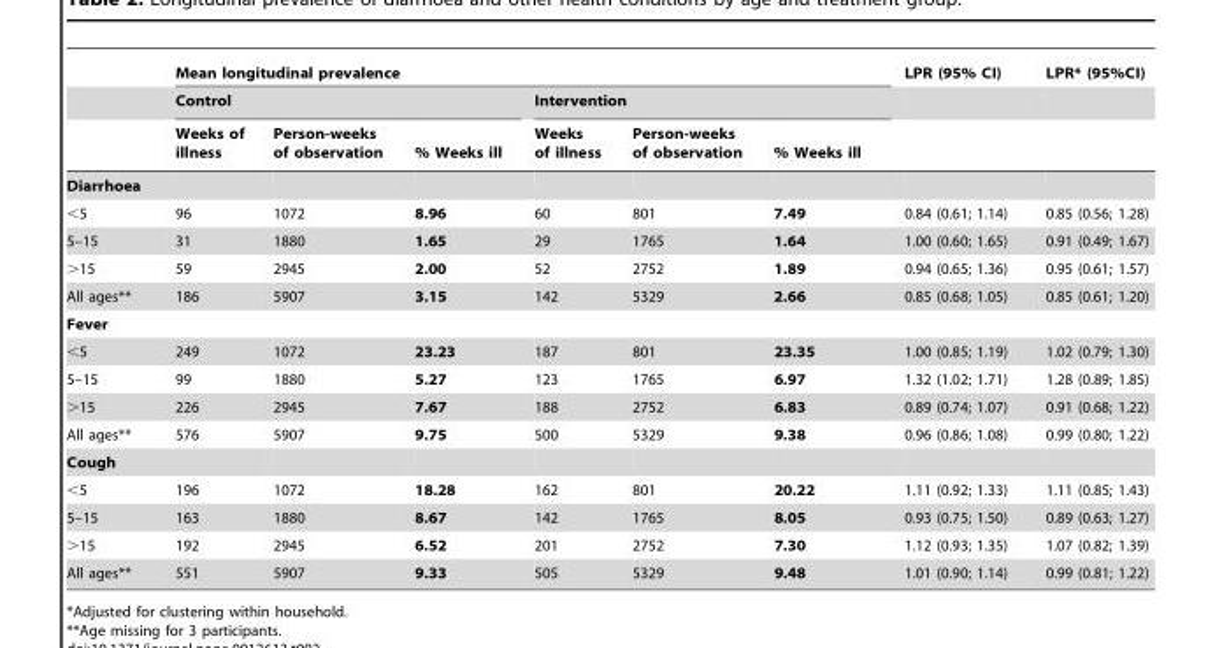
<table><thead><tr><td rowspan="3"></td><td colspan="6">Mean longitudinal prevalence</td><td rowspan="3">LPR (95% CI)</td><td rowspan="3">LPR* (95%CI)</td></tr><tr><td colspan="3">Control</td><td colspan="3">Intervention</td></tr><tr><td>Weeks of illness</td><td>Person-weeks of observation</td><td>% Weeks ill</td><td>Weeks of illness</td><td>Person-weeks of observation</td><td>% Weeks ill</td></tr></thead><tbody><tr><td colspan="9">Diarrhoea</td></tr><tr><td>&lt;5</td><td>96</td><td>1072</td><td>8.96</td><td>60</td><td>801</td><td>7.49</td><td>0.84 (0.61; 1.14)</td><td>0.85 (0.56; 1.28)</td></tr><tr><td>5–15</td><td>31</td><td>1880</td><td>1.65</td><td>29</td><td>1765</td><td>1.64</td><td>1.00 (0.60; 1.65)</td><td>0.91 (0.49; 1.67)</td></tr><tr><td>&gt;15</td><td>59</td><td>2945</td><td>2.00</td><td>52</td><td>2752</td><td>1.89</td><td>0.94 (0.65; 1.36)</td><td>0.95 (0.61; 1.57)</td></tr><tr><td>All ages**</td><td>186</td><td>5907</td><td>3.15</td><td>142</td><td>5329</td><td>2.66</td><td>0.85 (0.68; 1.05)</td><td>0.85 (0.61; 1.20)</td></tr><tr><td colspan="9">Fever</td></tr><tr><td>&lt;5</td><td>249</td><td>1072</td><td>23.23</td><td>187</td><td>801</td><td>23.35</td><td>1.00 (0.85; 1.19)</td><td>1.02 (0.79; 1.30)</td></tr><tr><td>5–15</td><td>99</td><td>1880</td><td>5.27</td><td>123</td><td>1765</td><td>6.97</td><td>1.32 (1.02; 1.71)</td><td>1.28 (0.89; 1.85)</td></tr><tr><td>&gt;15</td><td>226</td><td>2945</td><td>7.67</td><td>188</td><td>2752</td><td>6.83</td><td>0.89 (0.74; 1.07)</td><td>0.91 (0.68; 1.22)</td></tr><tr><td>All ages**</td><td>576</td><td>5907</td><td>9.75</td><td>500</td><td>5329</td><td>9.38</td><td>0.96 (0.86; 1.08)</td><td>0.99 (0.80; 1.22)</td></tr><tr><td colspan="9">Cough</td></tr><tr><td>&lt;5</td><td>196</td><td>1072</td><td>18.28</td><td>162</td><td>801</td><td>20.22</td><td>1.11 (0.92; 1.33)</td><td>1.11 (0.85; 1.43)</td></tr><tr><td>5–15</td><td>163</td><td>1880</td><td>8.67</td><td>142</td><td>1765</td><td>8.05</td><td>0.93 (0.75; 1.50)</td><td>0.89 (0.63; 1.27)</td></tr><tr><td>&gt;15</td><td>192</td><td>2945</td><td>6.52</td><td>201</td><td>2752</td><td>7.30</td><td>1.12 (0.93; 1.35)</td><td>1.07 (0.82; 1.39)</td></tr><tr><td>All ages**</td><td>551</td><td>5907</td><td>9.33</td><td>505</td><td>5329</td><td>9.48</td><td>1.01 (0.90; 1.14)</td><td>0.99 (0.81; 1.22)</td></tr></tbody></table>